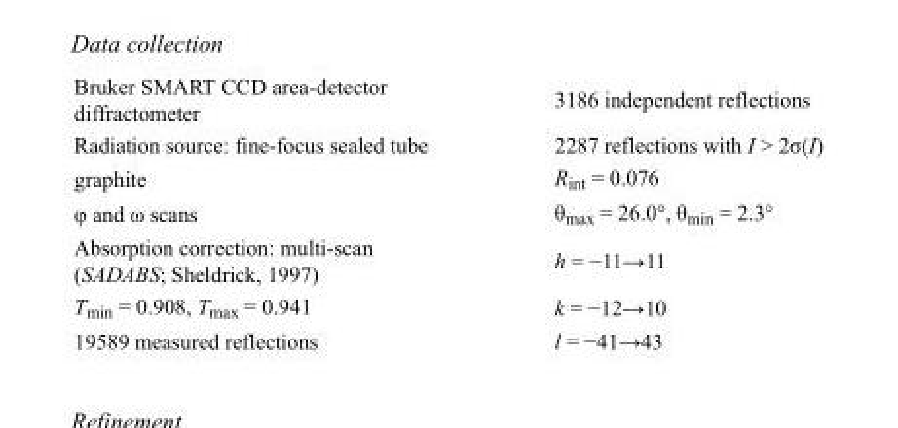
<table><tbody><tr><td>Bruker SMART CCD area-detector diffractometer</td><td>3186 independent reflections</td></tr><tr><td>Radiation source: fine-focus sealed tube</td><td>2287 reflections with I &gt; 2σ(I)</td></tr><tr><td>graphite</td><td>R<sub>int</sub> = 0.076</td></tr><tr><td>φ and ω scans</td><td>θ<sub>max</sub> = 26.0°, θ<sub>min</sub> = 2.3°</td></tr><tr><td>Absorption correction: multi-scan (SADABS; Sheldrick, 1997)</td><td>h = −11→11</td></tr><tr><td>T<sub>min</sub> = 0.908, T<sub>max</sub> = 0.941</td><td>k = −12→10</td></tr><tr><td>19589 measured reflections</td><td>l = −41→43</td></tr></tbody></table>